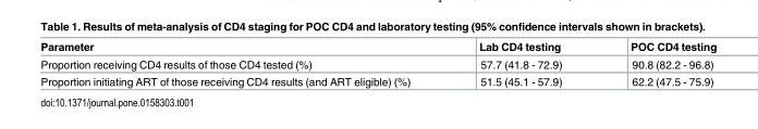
<table><thead><tr><td>Parameter</td><td>Lab CD4 testing</td><td>POC CD4 testing</td></tr></thead><tbody><tr><td>Proportion receiving CD4 results of those CD4 tested (%)</td><td>57.7 (41.8 - 72.9)</td><td>90.8 (82.2 - 96.8)</td></tr><tr><td>Proportion initiating ART of those receiving CD4 results (and ART eligible) (%)</td><td>51.5 (45.1 - 57.9)</td><td>62.2 (47.5 - 75.9)</td></tr></tbody></table>